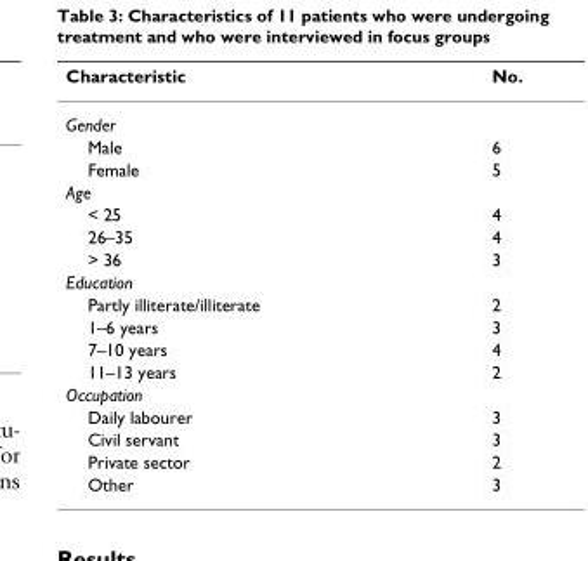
<table><thead><tr><td>Characteristic</td><td>No.</td></tr></thead><tbody><tr><td colspan="2">Gender</td></tr><tr><td>Male</td><td>6</td></tr><tr><td>Female</td><td>5</td></tr><tr><td colspan="2">Age</td></tr><tr><td>&lt; 25</td><td>4</td></tr><tr><td>26–35</td><td>4</td></tr><tr><td>&gt; 36</td><td>3</td></tr><tr><td colspan="2">Education</td></tr><tr><td>Partly illiterate/illiterate</td><td>2</td></tr><tr><td>1–6 years</td><td>3</td></tr><tr><td>7–10 years</td><td>4</td></tr><tr><td>11–13 years</td><td>2</td></tr><tr><td colspan="2">Occupation</td></tr><tr><td>Daily labourer</td><td>3</td></tr><tr><td>Civil servant</td><td>3</td></tr><tr><td>Private sector</td><td>2</td></tr><tr><td>Other</td><td>3</td></tr></tbody></table>